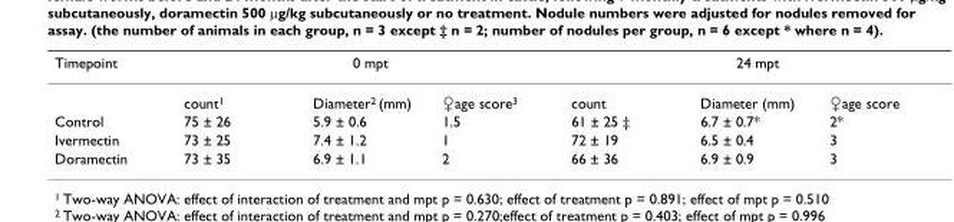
<table><thead><tr><td rowspan="2">Timepoint</td><td colspan="3">0 mpt</td><td colspan="3">24 mpt</td></tr><tr><td>count<sup>1</sup></td><td>Diameter<sup>2</sup> (mm)</td><td>♀age score<sup>3</sup></td><td>count</td><td>Diameter (mm)</td><td>♀age score</td></tr></thead><tbody><tr><td>Control</td><td>75 ± 26</td><td>5.9 ± 0.6</td><td>1.5</td><td>61 ± 25 ‡</td><td>6.7 ± 0.7*</td><td>2*</td></tr><tr><td>Ivermectin</td><td>73 ± 25</td><td>7.4 ± 1.2</td><td>1</td><td>72 ± 19</td><td>6.5 ± 0.4</td><td>3</td></tr><tr><td>Doramectin</td><td>73 ± 35</td><td>6.9 ± 1.1</td><td>2</td><td>66 ± 36</td><td>6.9 ± 0.9</td><td>3</td></tr></tbody></table>